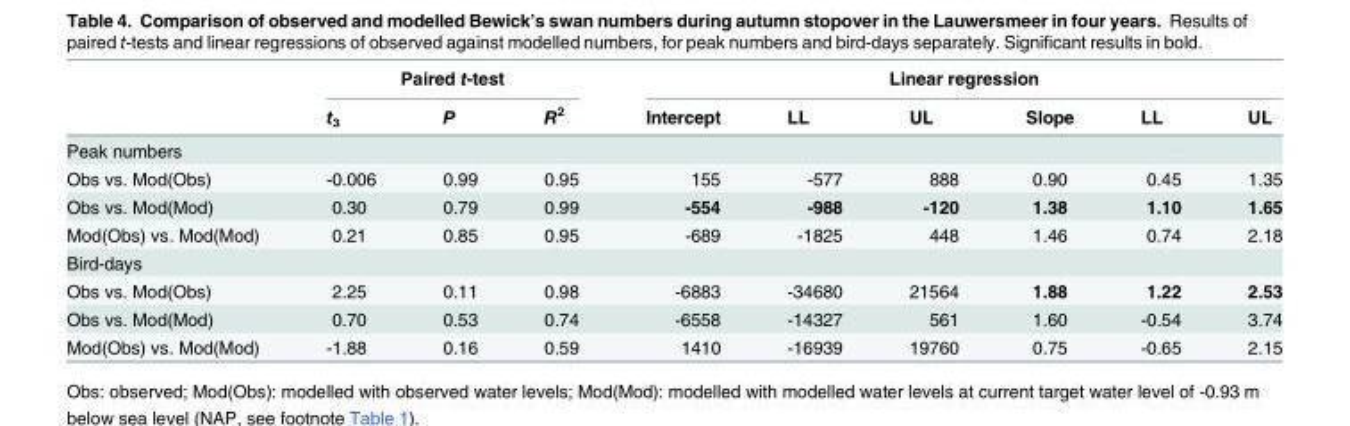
<table><thead><tr><td rowspan="2"></td><td colspan="3">Paired t-test</td><td colspan="6">Linear regression</td></tr><tr><td>t<sub>3</sub></td><td>P</td><td>R<sup>2</sup></td><td>Intercept</td><td>LL</td><td>UL</td><td>Slope</td><td>LL</td><td>UL</td></tr></thead><tbody><tr><td colspan="10">Peak numbers</td></tr><tr><td>Obs vs. Mod(Obs)</td><td>-0.006</td><td>0.99</td><td>0.95</td><td>155</td><td>-577</td><td>888</td><td>0.90</td><td>0.45</td><td>1.35</td></tr><tr><td>Obs vs. Mod(Mod)</td><td>0.30</td><td>0.79</td><td>0.99</td><td>-554</td><td>-988</td><td>-120</td><td>1.38</td><td>1.10</td><td>1.65</td></tr><tr><td>Mod(Obs) vs. Mod(Mod)</td><td>0.21</td><td>0.85</td><td>0.95</td><td>-689</td><td>-1825</td><td>448</td><td>1.46</td><td>0.74</td><td>2.18</td></tr><tr><td colspan="10">Bird-days</td></tr><tr><td>Obs vs. Mod(Obs)</td><td>2.25</td><td>0.11</td><td>0.98</td><td>-6883</td><td>-34680</td><td>21564</td><td>1.88</td><td>1.22</td><td>2.53</td></tr><tr><td>Obs vs. Mod(Mod)</td><td>0.70</td><td>0.53</td><td>0.74</td><td>-6558</td><td>-14327</td><td>561</td><td>1.60</td><td>-0.54</td><td>3.74</td></tr><tr><td>Mod(Obs) vs. Mod(Mod)</td><td>-1.88</td><td>0.16</td><td>0.59</td><td>1410</td><td>-16939</td><td>19760</td><td>0.75</td><td>-0.65</td><td>2.15</td></tr></tbody></table>